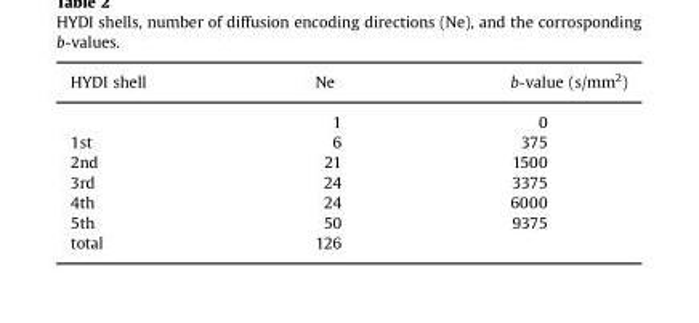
<table><thead><tr><td>HYDI shell</td><td>Ne</td><td>b-value (s/mm<sup>2</sup>)</td></tr></thead><tbody><tr><td></td><td>1</td><td>0</td></tr><tr><td>1st</td><td>6</td><td>375</td></tr><tr><td>2nd</td><td>21</td><td>1500</td></tr><tr><td>3rd</td><td>24</td><td>3375</td></tr><tr><td>4th</td><td>24</td><td>6000</td></tr><tr><td>5th</td><td>50</td><td>9375</td></tr><tr><td>total</td><td>126</td><td></td></tr></tbody></table>